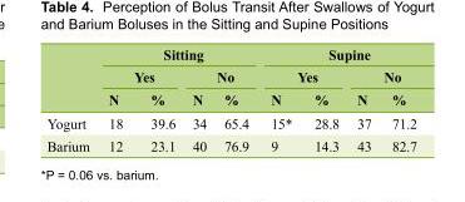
<table><thead><tr><td rowspan="3"></td><td colspan="4">Sitting</td><td colspan="4">Supine</td></tr><tr><td colspan="2">Yes</td><td colspan="2">No</td><td colspan="2">Yes</td><td colspan="2">No</td></tr><tr><td>N</td><td>%</td><td>N</td><td>%</td><td>N</td><td>%</td><td>N</td><td>%</td></tr></thead><tbody><tr><td>Yogurt</td><td>18</td><td>39.6</td><td>34</td><td>65.4</td><td>15*</td><td>28.8</td><td>37</td><td>71.2</td></tr><tr><td>Barium</td><td>12</td><td>23.1</td><td>40</td><td>76.9</td><td>9</td><td>14.3</td><td>43</td><td>82.7</td></tr></tbody></table>